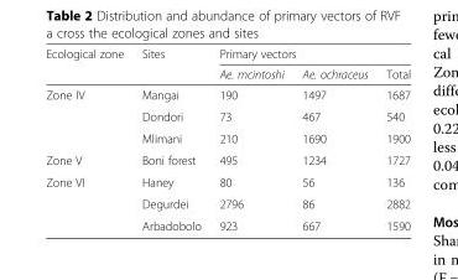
<table><thead><tr><td rowspan="2">Ecological zone</td><td rowspan="2">Sites</td><td colspan="3">Primary vectors</td></tr><tr><td>Ae. mcintoshi</td><td>Ae. ochraceus</td><td>Total</td></tr></thead><tbody><tr><td rowspan="3">Zone IV</td><td>Mangai</td><td>190</td><td>1497</td><td>1687</td></tr><tr><td>Dondori</td><td>73</td><td>467</td><td>540</td></tr><tr><td>Mlimani</td><td>210</td><td>1690</td><td>1900</td></tr><tr><td>Zone V</td><td>Boni forest</td><td>495</td><td>1234</td><td>1727</td></tr><tr><td rowspan="3">Zone VI</td><td>Haney</td><td>80</td><td>56</td><td>136</td></tr><tr><td>Degurdei</td><td>2796</td><td>86</td><td>2882</td></tr><tr><td>Arbadobolo</td><td>923</td><td>667</td><td>1590</td></tr></tbody></table>